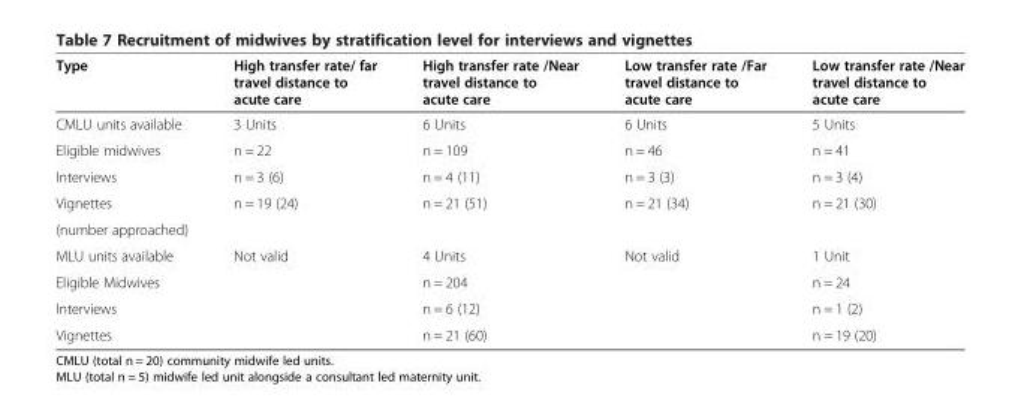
<table><thead><tr><td>Type</td><td>High transfer rate/ far travel distance to acute care</td><td>High transfer rate /Near travel distance to acute care</td><td>Low transfer rate /Far travel distance to acute care</td><td>Low transfer rate /Near travel distance to acute care</td></tr></thead><tbody><tr><td>CMLU units available</td><td>3 Units</td><td>6 Units</td><td>6 Units</td><td>5 Units</td></tr><tr><td>Eligible midwives</td><td>n = 22</td><td>n = 109</td><td>n = 46</td><td>n = 41</td></tr><tr><td>Interviews</td><td>n = 3 (6)</td><td>n = 4 (11)</td><td>n = 3 (3)</td><td>n = 3 (4)</td></tr><tr><td>Vignettes</td><td>n = 19 (24)</td><td>n = 21 (51)</td><td>n = 21 (34)</td><td>n = 21 (30)</td></tr><tr><td colspan="5">(number approached)</td></tr><tr><td>MLU units available</td><td>Not valid</td><td>4 Units</td><td>Not valid</td><td>1 Unit</td></tr><tr><td>Eligible Midwives</td><td></td><td>n = 204</td><td></td><td>n = 24</td></tr><tr><td>Interviews</td><td></td><td>n = 6 (12)</td><td></td><td>n = 1 (2)</td></tr><tr><td>Vignettes</td><td></td><td>n = 21 (60)</td><td></td><td>n = 19 (20)</td></tr></tbody></table>